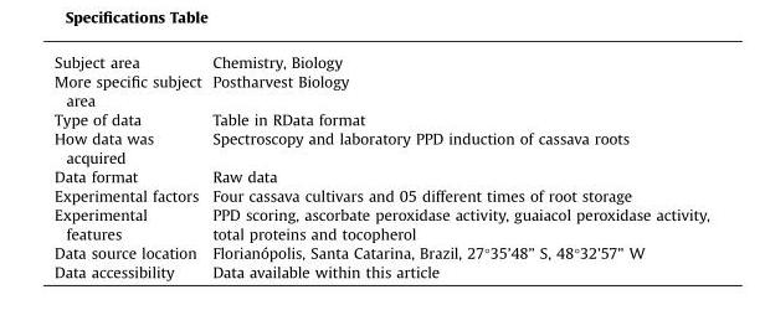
<table><tbody><tr><td>Subject area</td><td>Chemistry, Biology</td></tr><tr><td>More specific subject area</td><td>Postharvest Biology</td></tr><tr><td>Type of data</td><td>Table in RData format</td></tr><tr><td>How data was acquired</td><td>Spectroscopy and laboratory PPD induction of cassava roots</td></tr><tr><td>Data format</td><td>Raw data</td></tr><tr><td>Experimental factors</td><td>Four cassava cultivars and 05 different times of root storage</td></tr><tr><td>Experimental features</td><td>PPD scoring, ascorbate peroxidase activity, guaiacol peroxidase activity, total proteins and tocopherol</td></tr><tr><td>Data source location</td><td>Florianópolis, Santa Catarina, Brazil, 27°35’48” S, 48°32’57” W</td></tr><tr><td>Data accessibility</td><td>Data available within this article</td></tr></tbody></table>